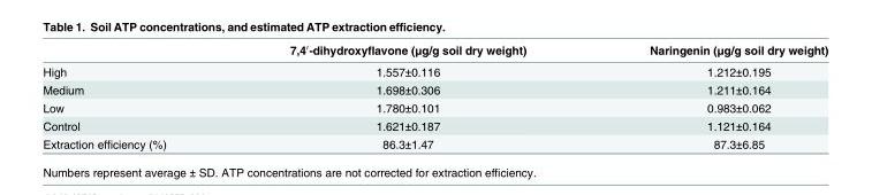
<table><thead><tr><td></td><td>7,4′-dihydroxyflavone (μg/g soil dry weight)</td><td>Naringenin (μg/g soil dry weight)</td></tr></thead><tbody><tr><td>High</td><td>1.557±0.116</td><td>1.212±0.195</td></tr><tr><td>Medium</td><td>1.698±0.306</td><td>1.211±0.164</td></tr><tr><td>Low</td><td>1.780±0.101</td><td>0.983±0.062</td></tr><tr><td>Control</td><td>1.621±0.187</td><td>1.121±0.164</td></tr><tr><td>Extraction efficiency (%)</td><td>86.3±1.47</td><td>87.3±6.85</td></tr></tbody></table>